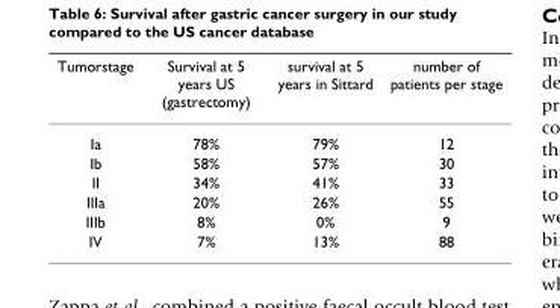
<table><thead><tr><td>Tumorstage</td><td>Survival at 5 years US (gastrectomy)</td><td>survival at 5 years in Sittard</td><td>number of patients per stage</td></tr></thead><tbody><tr><td>Ia</td><td>78%</td><td>79%</td><td>12</td></tr><tr><td>Ib</td><td>58%</td><td>57%</td><td>30</td></tr><tr><td>II</td><td>34%</td><td>41%</td><td>33</td></tr><tr><td>IIIa</td><td>20%</td><td>26%</td><td>55</td></tr><tr><td>IIIb</td><td>8%</td><td>0%</td><td>9</td></tr><tr><td>IV</td><td>7%</td><td>13%</td><td>88</td></tr></tbody></table>